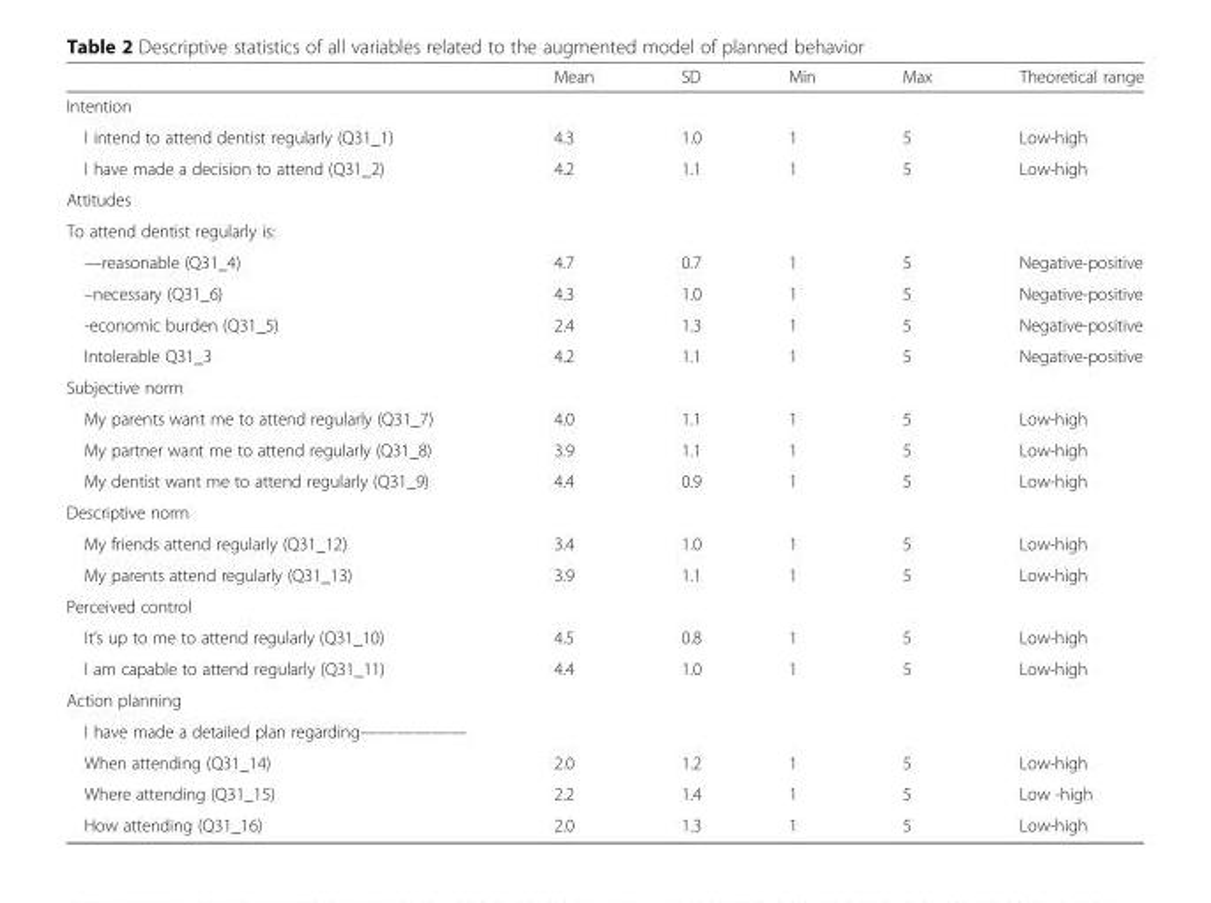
<table><thead><tr><td></td><td>Mean</td><td>SD</td><td>Min</td><td>Max</td><td>Theoretical range</td></tr></thead><tbody><tr><td colspan="6">Intention</td></tr><tr><td>I intend to attend dentist regularly (Q31_1)</td><td>4.3</td><td>1.0</td><td>1</td><td>5</td><td>Low-high</td></tr><tr><td>I have made a decision to attend (Q31_2)</td><td>4.2</td><td>1.1</td><td>1</td><td>5</td><td>Low-high</td></tr><tr><td colspan="6">Attitudes</td></tr><tr><td colspan="6">To attend dentist regularly is:</td></tr><tr><td>—reasonable (Q31_4)</td><td>4.7</td><td>0.7</td><td>1</td><td>5</td><td>Negative-positive</td></tr><tr><td>–necessary (Q31_6)</td><td>4.3</td><td>1.0</td><td>1</td><td>5</td><td>Negative-positive</td></tr><tr><td>-economic burden (Q31_5)</td><td>2.4</td><td>1.3</td><td>1</td><td>5</td><td>Negative-positive</td></tr><tr><td>Intolerable Q31_3</td><td>4.2</td><td>1.1</td><td>1</td><td>5</td><td>Negative-positive</td></tr><tr><td colspan="6">Subjective norm</td></tr><tr><td>My parents want me to attend regularly (Q31_7)</td><td>4.0</td><td>1.1</td><td>1</td><td>5</td><td>Low-high</td></tr><tr><td>My partner want me to attend regularly (Q31_8)</td><td>3.9</td><td>1.1</td><td>1</td><td>5</td><td>Low-high</td></tr><tr><td>My dentist want me to attend regularly (Q31_9)</td><td>4.4</td><td>0.9</td><td>1</td><td>5</td><td>Low-high</td></tr><tr><td colspan="6">Descriptive norm</td></tr><tr><td>My friends attend regularly (Q31_12)</td><td>3.4</td><td>1.0</td><td>1</td><td>5</td><td>Low-high</td></tr><tr><td>My parents attend regularly (Q31_13)</td><td>3.9</td><td>1.1</td><td>1</td><td>5</td><td>Low-high</td></tr><tr><td colspan="6">Perceived control</td></tr><tr><td>It’s up to me to attend regularly (Q31_10)</td><td>4.5</td><td>0.8</td><td>1</td><td>5</td><td>Low-high</td></tr><tr><td>I am capable to attend regularly (Q31_11)</td><td>4.4</td><td>1.0</td><td>1</td><td>5</td><td>Low-high</td></tr><tr><td colspan="6">Action planning</td></tr><tr><td colspan="6">I have made a detailed plan regarding——————</td></tr><tr><td>When attending (Q31_14)</td><td>2.0</td><td>1.2</td><td>1</td><td>5</td><td>Low-high</td></tr><tr><td>Where attending (Q31_15)</td><td>2.2</td><td>1.4</td><td>1</td><td>5</td><td>Low -high</td></tr><tr><td>How attending (Q31_16)</td><td>2.0</td><td>1.3</td><td>1</td><td>5</td><td>Low-high</td></tr></tbody></table>